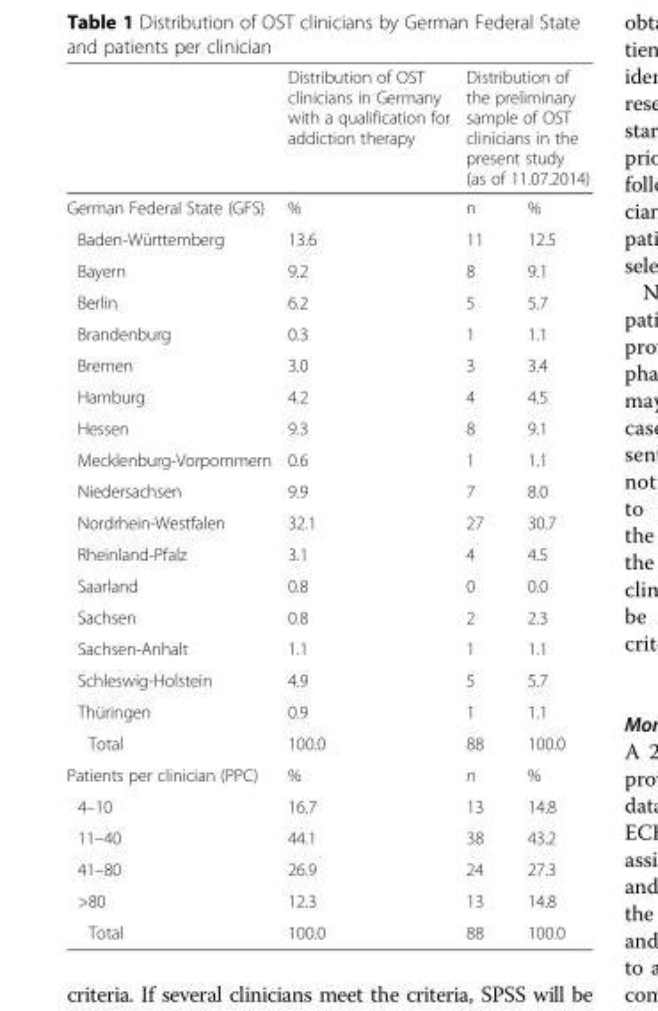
<table><thead><tr><td rowspan="2">German Federal State (GFS)</td><td rowspan="2">Distribution of OST clinicians in Germany with a qualification for addiction therapy %</td><td colspan="2">Distribution of the preliminary sample of OST clinicians in the present study (as of 11.07.2014)</td></tr><tr><td>n</td><td>%</td></tr></thead><tbody><tr><td>Baden-Württemberg</td><td>13.6</td><td>11</td><td>12.5</td></tr><tr><td>Bayern</td><td>9.2</td><td>8</td><td>9.1</td></tr><tr><td>Berlin</td><td>6.2</td><td>5</td><td>5.7</td></tr><tr><td>Brandenburg</td><td>0.3</td><td>1</td><td>1.1</td></tr><tr><td>Bremen</td><td>3.0</td><td>3</td><td>3.4</td></tr><tr><td>Hamburg</td><td>4.2</td><td>4</td><td>4.5</td></tr><tr><td>Hessen</td><td>9.3</td><td>8</td><td>9.1</td></tr><tr><td>Mecklenburg-Vorpommern</td><td>0.6</td><td>1</td><td>1.1</td></tr><tr><td>Niedersachsen</td><td>9.9</td><td>7</td><td>8.0</td></tr><tr><td>Nordrhein-Westfalen</td><td>32.1</td><td>27</td><td>30.7</td></tr><tr><td>Rheinland-Pfalz</td><td>3.1</td><td>4</td><td>4.5</td></tr><tr><td>Saarland</td><td>0.8</td><td>0</td><td>0.0</td></tr><tr><td>Sachsen</td><td>0.8</td><td>2</td><td>2.3</td></tr><tr><td>Sachsen-Anhalt</td><td>1.1</td><td>1</td><td>1.1</td></tr><tr><td>Schleswig-Holstein</td><td>4.9</td><td>5</td><td>5.7</td></tr><tr><td>Thüringen</td><td>0.9</td><td>1</td><td>1.1</td></tr><tr><td>Total</td><td>100.0</td><td>88</td><td>100.0</td></tr><tr><td>Patients per clinician (PPC)</td><td>%</td><td>n</td><td>%</td></tr><tr><td>4–10</td><td>16.7</td><td>13</td><td>14.8</td></tr><tr><td>11–40</td><td>44.1</td><td>38</td><td>43.2</td></tr><tr><td>41–80</td><td>26.9</td><td>24</td><td>27.3</td></tr><tr><td>&gt;80</td><td>12.3</td><td>13</td><td>14.8</td></tr><tr><td>Total</td><td>100.0</td><td>88</td><td>100.0</td></tr></tbody></table>